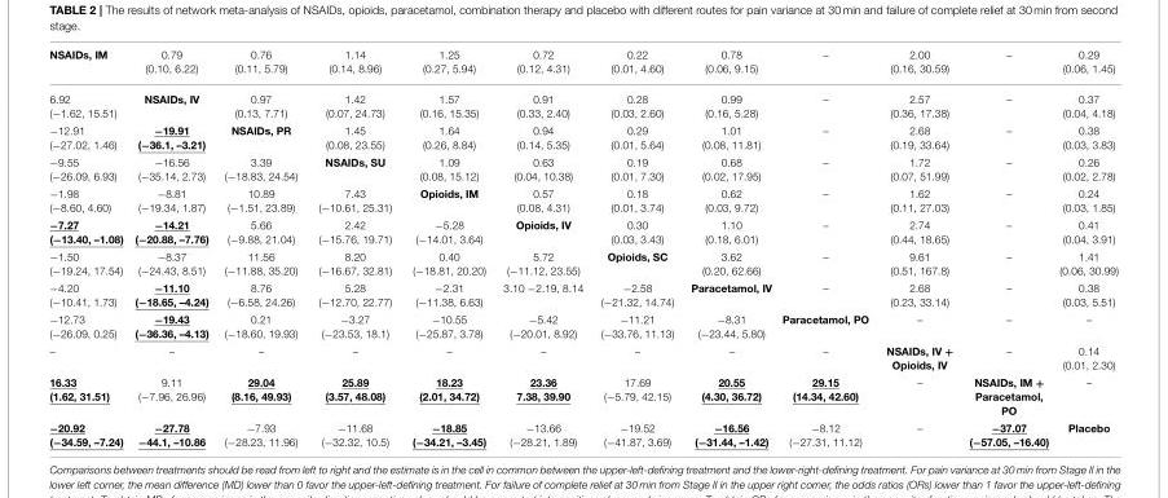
<table><tbody><tr><td>NSAIDs, IM</td><td>0.79 (0.10, 6.22)</td><td>0.76 (0.11, 5.79)</td><td>1.14 (0.14, 8.96)</td><td>1.25 (0.27, 5.94)</td><td>0.72 (0.12, 4.31)</td><td>0.22 (0.01, 4.60)</td><td>0.78 (0.06, 9.15)</td><td>–</td><td>2.00 (0.16, 30.59)</td><td>–</td><td>0.29 (0.06, 1.45)</td></tr><tr><td>6.92 (−1.62, 15.51)</td><td>NSAIDs, IV</td><td>0.97 (0.13, 7.71)</td><td>1.42 (0.07, 24.73)</td><td>1.57 (0.16, 15.35)</td><td>0.91 (0.33, 2.40)</td><td>0.28 (0.03, 2.60)</td><td>0.99 (0.16, 5.28)</td><td>–</td><td>2.57 (0.36, 17.38)</td><td>–</td><td>0.37 (0.04, 4.18)</td></tr><tr><td>−12.91 (−27.02, 1.46)</td><td>−19.91 (−36.1, –3.21)</td><td>NSAIDs, PR</td><td>1.45 (0.08, 23.55)</td><td>1.64 (0.26, 8.84)</td><td>0.94 (0.14, 5.35)</td><td>0.29 (0.01, 5.64)</td><td>1.01 (0.08, 11.81)</td><td>–</td><td>2.68 (0.19, 33.64)</td><td>–</td><td>0.38 (0.03, 3.83)</td></tr><tr><td>−9.55 (−26.09, 6.93)</td><td>−16.56 (−35.14, 2.73)</td><td>3.39 (−18.83, 24.54)</td><td>NSAIDs, SU</td><td>1.09 (0.08, 15.12)</td><td>0.63 (0.04, 10.38)</td><td>0.19 (0.01, 7.30)</td><td>0.68 (0.02, 17.95)</td><td>–</td><td>1.72 (0.07, 51.99)</td><td>–</td><td>0.26 (0.02, 2.78)</td></tr><tr><td>−1.98 (−8.60, 4.60)</td><td>−8.81 (−19.34, 1.87)</td><td>10.89 (−1.51, 23.89)</td><td>7.43 (−10.61, 25.31)</td><td>Opioids, IM</td><td>0.57 (0.08, 4.31)</td><td>0.18 (0.01, 3.74)</td><td>0.62 (0.03, 9.72)</td><td>–</td><td>1.62 (0.11, 27.03)</td><td>–</td><td>0.24 (0.03, 1.85)</td></tr><tr><td>−7.27 (−13.40, –1.08)</td><td>−14.21 (−20.88, –7.76)</td><td>5.66 (−9.88, 21.04)</td><td>2.42 (−15.76, 19.71)</td><td>−5.28 (−14.01, 3.64)</td><td>Opioids, IV</td><td>0.30 (0.03, 3.43)</td><td>1.10 (0.18, 6.01)</td><td>–</td><td>2.74 (0.44, 18.65)</td><td>–</td><td>0.41 (0.04, 3.91)</td></tr><tr><td>−1.50 (−19.24, 17.54)</td><td>−8.37 (−24.43, 8.51)</td><td>11.56 (−11.88, 35.20)</td><td>8.20 (−16.67, 32.81)</td><td>0.40 (−18.81, 20.20)</td><td>5.72 (−11.12, 23.55)</td><td>Opioids, SC</td><td>3.62 (0.20, 62.66)</td><td>–</td><td>9.61 (0.51, 167.8)</td><td>–</td><td>1.41 (0.06, 30.99)</td></tr><tr><td>−4.20 (−10.41, 1.73)</td><td>−11.10 (−18.65, –4.24)</td><td>8.76 (−6.58, 24.26)</td><td>5.28 (−12.70, 22.77)</td><td>−2.31 (−11.38, 6.63)</td><td>3.10 −2.19, 8.14</td><td>−2.58 (−21.32, 14.74)</td><td>Paracetamol, IV</td><td>–</td><td>2.68 (0.23, 33.14)</td><td>–</td><td>0.38 (0.03, 5.51)</td></tr><tr><td>−12.73 (−26.09, 0.25)</td><td>−19.43 (−36.36, –4.13)</td><td>0.21 (−18.60, 19.93)</td><td>−3.27 (−23.53, 18.1)</td><td>−10.55 (−25.87, 3.78)</td><td>−5.42 (−20.01, 8.92)</td><td>−11.21 (−33.76, 11.13)</td><td>−8.31 (−23.44, 5.80)</td><td>Paracetamol, PO</td><td>–</td><td>–</td><td>–</td></tr><tr><td>–</td><td>–</td><td>–</td><td>–</td><td>–</td><td>–</td><td>–</td><td>–</td><td>–</td><td>NSAIDs, IV + Opioids, IV</td><td>–</td><td>0.14 (0.01, 2.30)</td></tr><tr><td>16.33 (1.62, 31.51)</td><td>9.11 (−7.96, 26.96)</td><td>29.04 (8.16, 49.93)</td><td>25.89 (3.57, 48.08)</td><td>18.23 (2.01, 34.72)</td><td>23.36 7.38, 39.90</td><td>17.69 (−5.79, 42.15)</td><td>20.55 (4.30, 36.72)</td><td>29.15 (14.34, 42.60)</td><td>–</td><td>NSAIDs, IM + Paracetamol, PO</td><td>–</td></tr><tr><td>−20.92 (−34.59, –7.24)</td><td>−27.78 −44.1, –10.86</td><td>−7.93 (−28.23, 11.96)</td><td>−11.68 (−32.32, 10.5)</td><td>−18.85 (−34.21, –3.45)</td><td>−13.66 (−28.21, 1.89)</td><td>−19.52 (−41.87, 3.69)</td><td>−16.56 (−31.44, –1.42)</td><td>−8.12 (−27.31, 11.12)</td><td>–</td><td>−37.07 (−57.05, –16.40)</td><td>Placebo</td></tr></tbody></table>